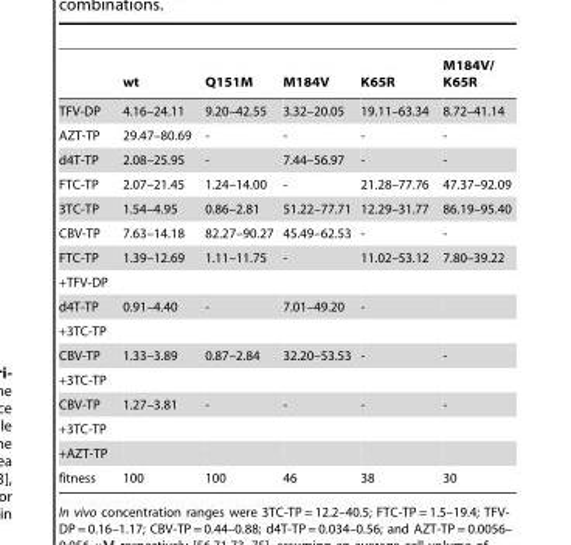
<table><thead><tr><td></td><td>wt</td><td>Q151M</td><td>M184V</td><td>K65R</td><td>M184V/ K65R</td></tr></thead><tbody><tr><td>TFV-DP</td><td>4.16–24.11</td><td>9.20–42.55</td><td>3.32–20.05</td><td>19.11–63.34</td><td>8.72–41.14</td></tr><tr><td>AZT-TP</td><td>29.47–80.69</td><td>-</td><td>-</td><td>-</td><td>-</td></tr><tr><td>d4T-TP</td><td>2.08–25.95</td><td>-</td><td>7.44–56.97</td><td>-</td><td>-</td></tr><tr><td>FTC-TP</td><td>2.07–21.45</td><td>1.24–14.00</td><td>-</td><td>21.28–77.76</td><td>47.37–92.09</td></tr><tr><td>3TC-TP</td><td>1.54–4.95</td><td>0.86–2.81</td><td>51.22–77.71</td><td>12.29–31.77</td><td>86.19–95.40</td></tr><tr><td>CBV-TP</td><td>7.63–14.18</td><td>82.27–90.27</td><td>45.49–62.53</td><td>-</td><td>-</td></tr><tr><td>FTC-TP</td><td>1.39–12.69</td><td>1.11–11.75</td><td>-</td><td>11.02–53.12</td><td>7.80–39.22</td></tr><tr><td colspan="6">+TFV-DP</td></tr><tr><td>d4T-TP</td><td>0.91–4.40</td><td>-</td><td>7.01–49.20</td><td>-</td><td></td></tr><tr><td colspan="6">+3TC-TP</td></tr><tr><td>CBV-TP</td><td>1.33–3.89</td><td>0.87–2.84</td><td>32.20–53.53</td><td>-</td><td>-</td></tr><tr><td colspan="6">+3TC-TP</td></tr><tr><td>CBV-TP</td><td>1.27–3.81</td><td>-</td><td>-</td><td>-</td><td>-</td></tr><tr><td colspan="6">+3TC-TP</td></tr><tr><td colspan="6">+AZT-TP</td></tr><tr><td>fitness</td><td>100</td><td>100</td><td>46</td><td>38</td><td>30</td></tr></tbody></table>